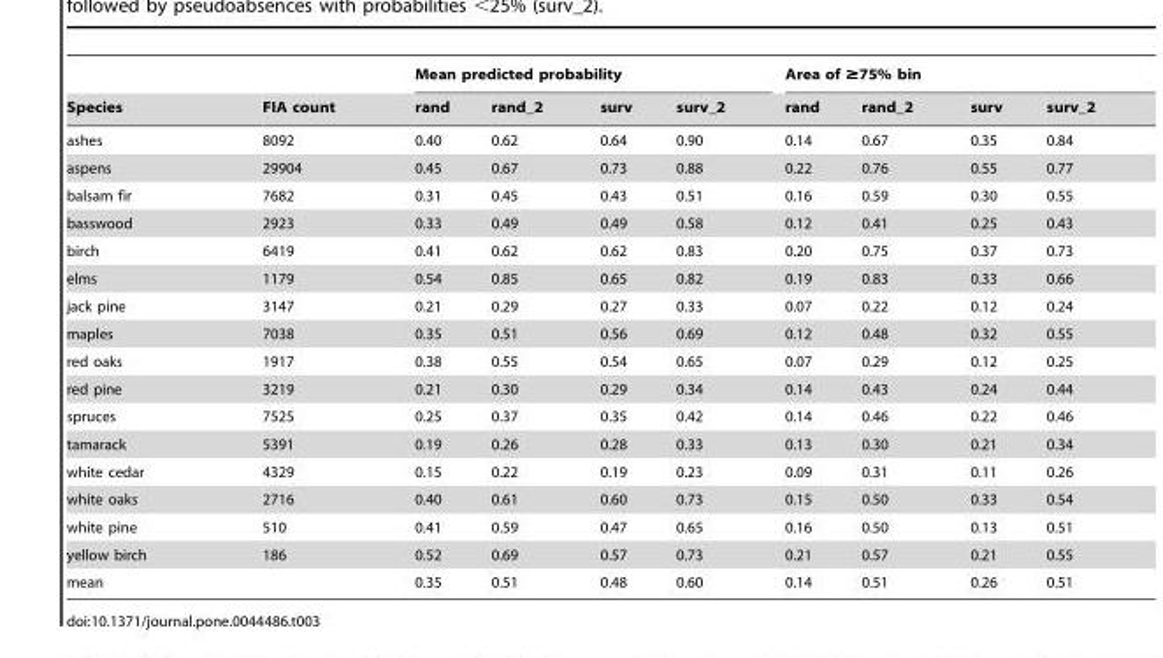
<table><thead><tr><td rowspan="2">Species</td><td rowspan="2">FIA count</td><td colspan="4">Mean predicted probability</td><td colspan="4">Area of ≥75% bin</td></tr><tr><td>rand</td><td>rand_2</td><td>surv</td><td>surv_2</td><td>rand</td><td>rand_2</td><td>surv</td><td>surv_2</td></tr></thead><tbody><tr><td>ashes</td><td>8092</td><td>0.40</td><td>0.62</td><td>0.64</td><td>0.90</td><td>0.14</td><td>0.67</td><td>0.35</td><td>0.84</td></tr><tr><td>aspens</td><td>29904</td><td>0.45</td><td>0.67</td><td>0.73</td><td>0.88</td><td>0.22</td><td>0.76</td><td>0.55</td><td>0.77</td></tr><tr><td>balsam fir</td><td>7682</td><td>0.31</td><td>0.45</td><td>0.43</td><td>0.51</td><td>0.16</td><td>0.59</td><td>0.30</td><td>0.55</td></tr><tr><td>basswood</td><td>2923</td><td>0.33</td><td>0.49</td><td>0.49</td><td>0.58</td><td>0.12</td><td>0.41</td><td>0.25</td><td>0.43</td></tr><tr><td>birch</td><td>6419</td><td>0.41</td><td>0.62</td><td>0.62</td><td>0.83</td><td>0.20</td><td>0.75</td><td>0.37</td><td>0.73</td></tr><tr><td>elms</td><td>1179</td><td>0.54</td><td>0.85</td><td>0.65</td><td>0.82</td><td>0.19</td><td>0.83</td><td>0.33</td><td>0.66</td></tr><tr><td>jack pine</td><td>3147</td><td>0.21</td><td>0.29</td><td>0.27</td><td>0.33</td><td>0.07</td><td>0.22</td><td>0.12</td><td>0.24</td></tr><tr><td>maples</td><td>7038</td><td>0.35</td><td>0.51</td><td>0.56</td><td>0.69</td><td>0.12</td><td>0.48</td><td>0.32</td><td>0.55</td></tr><tr><td>red oaks</td><td>1917</td><td>0.38</td><td>0.55</td><td>0.54</td><td>0.65</td><td>0.07</td><td>0.29</td><td>0.12</td><td>0.25</td></tr><tr><td>red pine</td><td>3219</td><td>0.21</td><td>0.30</td><td>0.29</td><td>0.34</td><td>0.14</td><td>0.43</td><td>0.24</td><td>0.44</td></tr><tr><td>spruces</td><td>7525</td><td>0.25</td><td>0.37</td><td>0.35</td><td>0.42</td><td>0.14</td><td>0.46</td><td>0.22</td><td>0.46</td></tr><tr><td>tamarack</td><td>5391</td><td>0.19</td><td>0.26</td><td>0.28</td><td>0.33</td><td>0.13</td><td>0.30</td><td>0.21</td><td>0.34</td></tr><tr><td>white cedar</td><td>4329</td><td>0.15</td><td>0.22</td><td>0.19</td><td>0.23</td><td>0.09</td><td>0.31</td><td>0.11</td><td>0.26</td></tr><tr><td>white oaks</td><td>2716</td><td>0.40</td><td>0.61</td><td>0.60</td><td>0.73</td><td>0.15</td><td>0.50</td><td>0.33</td><td>0.54</td></tr><tr><td>white pine</td><td>510</td><td>0.41</td><td>0.59</td><td>0.47</td><td>0.65</td><td>0.16</td><td>0.50</td><td>0.13</td><td>0.51</td></tr><tr><td>yellow birch</td><td>186</td><td>0.52</td><td>0.69</td><td>0.57</td><td>0.73</td><td>0.21</td><td>0.57</td><td>0.21</td><td>0.55</td></tr><tr><td>mean</td><td></td><td>0.35</td><td>0.51</td><td>0.48</td><td>0.60</td><td>0.14</td><td>0.51</td><td>0.26</td><td>0.51</td></tr></tbody></table>